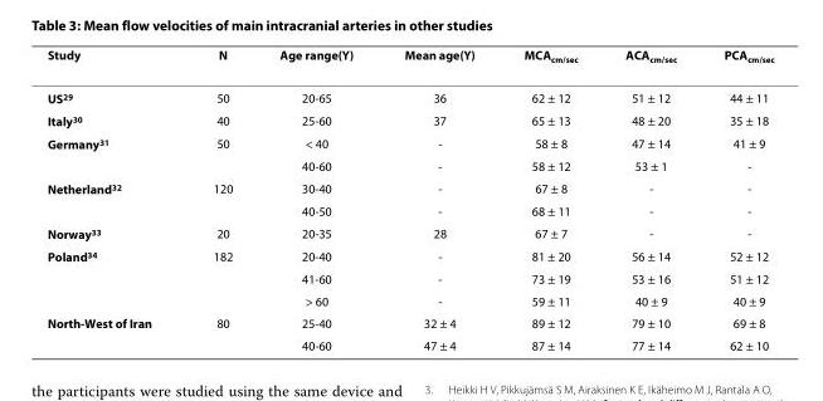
<table><thead><tr><td>Study</td><td>N</td><td>Age range(Y)</td><td>Mean age(Y)</td><td>MCA<sub>cm/sec</sub></td><td>ACA<sub>cm/sec</sub></td><td>PCA<sub>cm/sec</sub></td></tr></thead><tbody><tr><td>US<sup>29</sup></td><td>50</td><td>20-65</td><td>36</td><td>62 ± 12</td><td>51 ± 12</td><td>44 ± 11</td></tr><tr><td>Italy<sup>30</sup></td><td>40</td><td>25-60</td><td>37</td><td>65 ± 13</td><td>48 ± 20</td><td>35 ± 18</td></tr><tr><td rowspan="2">Germany<sup>31</sup></td><td>50</td><td>&lt; 40</td><td>-</td><td>58 ± 8</td><td>47 ± 14</td><td>41 ± 9</td></tr><tr><td></td><td>40-60</td><td>-</td><td>58 ± 12</td><td>53 ± 1</td><td>-</td></tr><tr><td rowspan="2">Netherland<sup>32</sup></td><td>120</td><td>30-40</td><td>-</td><td>67 ± 8</td><td>-</td><td>-</td></tr><tr><td></td><td>40-50</td><td>-</td><td>68 ± 11</td><td>-</td><td>-</td></tr><tr><td>Norway<sup>33</sup></td><td>20</td><td>20-35</td><td>28</td><td>67 ± 7</td><td>-</td><td>-</td></tr><tr><td rowspan="3">Poland<sup>34</sup></td><td>182</td><td>20-40</td><td>-</td><td>81 ± 20</td><td>56 ± 14</td><td>52 ± 12</td></tr><tr><td></td><td>41-60</td><td>-</td><td>73 ± 19</td><td>53 ± 16</td><td>51 ± 12</td></tr><tr><td></td><td>&gt; 60</td><td>-</td><td>59 ± 11</td><td>40 ± 9</td><td>40 ± 9</td></tr><tr><td rowspan="2">North-West of Iran</td><td>80</td><td>25-40</td><td>32 ± 4</td><td>89 ± 12</td><td>79 ± 10</td><td>69 ± 8</td></tr><tr><td></td><td>40-60</td><td>47 ± 4</td><td>87 ± 14</td><td>77 ± 14</td><td>62 ± 10</td></tr></tbody></table>